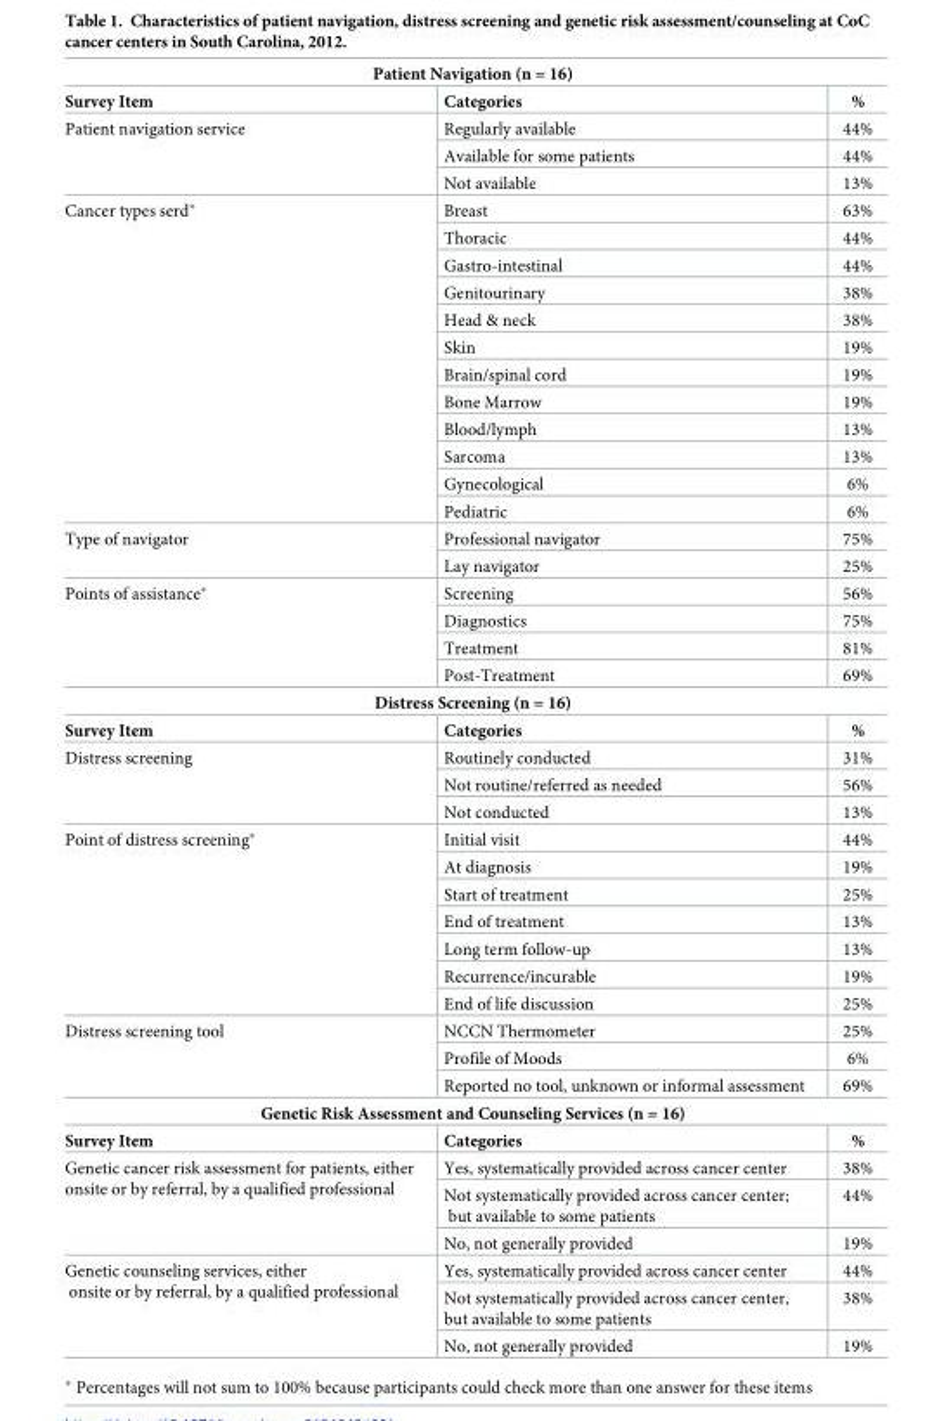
<table><tbody><tr><td colspan="3">Patient Navigation (n = 16)</td></tr><tr><td>Survey Item</td><td>Categories</td><td>%</td></tr><tr><td rowspan="3">Patient navigation service</td><td>Regularly available</td><td>44%</td></tr><tr><td>Available for some patients</td><td>44%</td></tr><tr><td>Not available</td><td>13%</td></tr><tr><td rowspan="12">Cancer types serd*</td><td>Breast</td><td>63%</td></tr><tr><td>Thoracic</td><td>44%</td></tr><tr><td>Gastro-intestinal</td><td>44%</td></tr><tr><td>Genitourinary</td><td>38%</td></tr><tr><td>Head &amp; neck</td><td>38%</td></tr><tr><td>Skin</td><td>19%</td></tr><tr><td>Brain/spinal cord</td><td>19%</td></tr><tr><td>Bone Marrow</td><td>19%</td></tr><tr><td>Blood/lymph</td><td>13%</td></tr><tr><td>Sarcoma</td><td>13%</td></tr><tr><td>Gynecological</td><td>6%</td></tr><tr><td>Pediatric</td><td>6%</td></tr><tr><td rowspan="2">Type of navigator</td><td>Professional navigator</td><td>75%</td></tr><tr><td>Lay navigator</td><td>25%</td></tr><tr><td rowspan="4">Points of assistance*</td><td>Screening</td><td>56%</td></tr><tr><td>Diagnostics</td><td>75%</td></tr><tr><td>Treatment</td><td>81%</td></tr><tr><td>Post-Treatment</td><td>69%</td></tr><tr><td colspan="3">Distress Screening (n = 16)</td></tr><tr><td>Survey Item</td><td>Categories</td><td>%</td></tr><tr><td rowspan="3">Distress screening</td><td>Routinely conducted</td><td>31%</td></tr><tr><td>Not routine/referred as needed</td><td>56%</td></tr><tr><td>Not conducted</td><td>13%</td></tr><tr><td rowspan="7">Point of distress screening*</td><td>Initial visit</td><td>44%</td></tr><tr><td>At diagnosis</td><td>19%</td></tr><tr><td>Start of treatment</td><td>25%</td></tr><tr><td>End of treatment</td><td>13%</td></tr><tr><td>Long term follow-up</td><td>13%</td></tr><tr><td>Recurrence/incurable</td><td>19%</td></tr><tr><td>End of life discussion</td><td>25%</td></tr><tr><td rowspan="3">Distress screening tool</td><td>NCCN Thermometer</td><td>25%</td></tr><tr><td>Profile of Moods</td><td>6%</td></tr><tr><td>Reported no tool, unknown or informal assessment</td><td>69%</td></tr><tr><td colspan="3">Genetic Risk Assessment and Counseling Services (n = 16)</td></tr><tr><td>Survey Item</td><td>Categories</td><td>%</td></tr><tr><td rowspan="3">Genetic cancer risk assessment for patients, either onsite or by referral, by a qualified professional</td><td>Yes, systematically provided across cancer center</td><td>38%</td></tr><tr><td>Not systematically provided across cancer center; but available to some patients</td><td>44%</td></tr><tr><td>No, not generally provided</td><td>19%</td></tr><tr><td rowspan="3">Genetic counseling services, either onsite or by referral, by a qualified professional</td><td>Yes, systematically provided across cancer center</td><td>44%</td></tr><tr><td>Not systematically provided across cancer center, but available to some patients</td><td>38%</td></tr><tr><td>No, not generally provided</td><td>19%</td></tr></tbody></table>